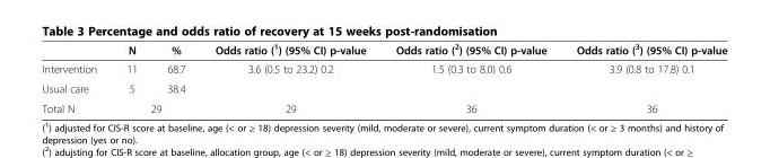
<table><thead><tr><td></td><td>N</td><td>%</td><td>Odds ratio (<sup>1</sup>) (95% CI) p-value</td><td>Odds ratio (<sup>2</sup>) (95% CI) p-value</td><td>Odds ratio (<sup>3</sup>) (95% CI) p-value</td></tr></thead><tbody><tr><td>Intervention</td><td>11</td><td>68.7</td><td rowspan="2">3.6 (0.5 to 23.2) 0.2</td><td rowspan="2">1.5 (0.3 to 8.0) 0.6</td><td rowspan="2">3.9 (0.8 to 17.8) 0.1</td></tr><tr><td>Usual care</td><td>5</td><td>38.4</td></tr><tr><td>Total N</td><td colspan="2">29</td><td>29</td><td>36</td><td>36</td></tr></tbody></table>